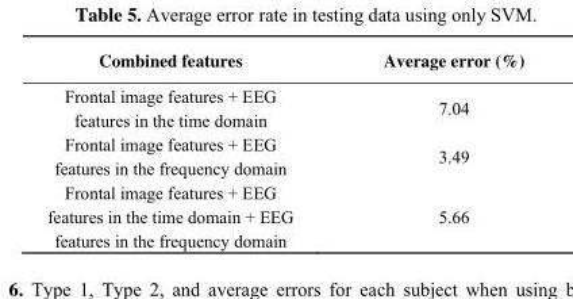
<table><thead><tr><td>Combined features</td><td>Average error (%)</td></tr></thead><tbody><tr><td>Frontal image features + EEG features in the time domain</td><td>7.04</td></tr><tr><td>Frontal image features + EEG features in the frequency domain</td><td>3.49</td></tr><tr><td>Frontal image features + EEG features in the time domain + EEG features in the frequency domain</td><td>5.66</td></tr></tbody></table>